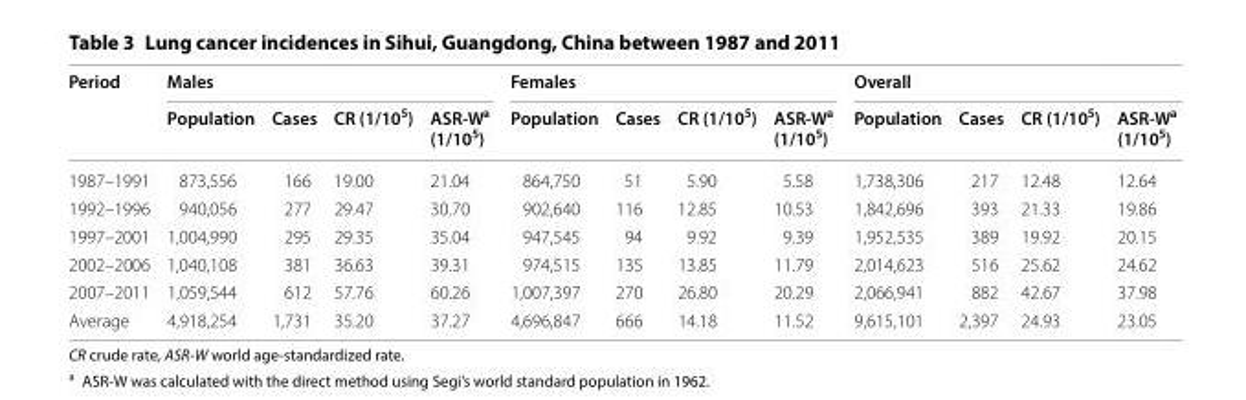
<table><thead><tr><td rowspan="2">Period</td><td colspan="4">Males</td><td colspan="4">Females</td><td colspan="4">Overall</td></tr><tr><td>Population</td><td>Cases</td><td>CR (1/10<sup>5</sup>)</td><td>ASR-W<sup>a</sup> (1/10<sup>5</sup>)</td><td>Population</td><td>Cases</td><td>CR (1/10<sup>5</sup>)</td><td>ASR-W<sup>a</sup> (1/10<sup>5</sup>)</td><td>Population</td><td>Cases</td><td>CR (1/10<sup>5</sup>)</td><td>ASR-W<sup>a</sup> (1/10<sup>5</sup>)</td></tr></thead><tbody><tr><td>1987–1991</td><td>873,556</td><td>166</td><td>19.00</td><td>21.04</td><td>864,750</td><td>51</td><td>5.90</td><td>5.58</td><td>1,738,306</td><td>217</td><td>12.48</td><td>12.64</td></tr><tr><td>1992–1996</td><td>940,056</td><td>277</td><td>29.47</td><td>30.70</td><td>902,640</td><td>116</td><td>12.85</td><td>10.53</td><td>1,842,696</td><td>393</td><td>21.33</td><td>19.86</td></tr><tr><td>1997–2001</td><td>1,004,990</td><td>295</td><td>29.35</td><td>35.04</td><td>947,545</td><td>94</td><td>9.92</td><td>9.39</td><td>1,952,535</td><td>389</td><td>19.92</td><td>20.15</td></tr><tr><td>2002–2006</td><td>1,040,108</td><td>381</td><td>36.63</td><td>39.31</td><td>974,515</td><td>135</td><td>13.85</td><td>11.79</td><td>2,014,623</td><td>516</td><td>25.62</td><td>24.62</td></tr><tr><td>2007–2011</td><td>1,059,544</td><td>612</td><td>57.76</td><td>60.26</td><td>1,007,397</td><td>270</td><td>26.80</td><td>20.29</td><td>2,066,941</td><td>882</td><td>42.67</td><td>37.98</td></tr><tr><td>Average</td><td>4,918,254</td><td>1,731</td><td>35.20</td><td>37.27</td><td>4,696,847</td><td>666</td><td>14.18</td><td>11.52</td><td>9,615,101</td><td>2,397</td><td>24.93</td><td>23.05</td></tr></tbody></table>